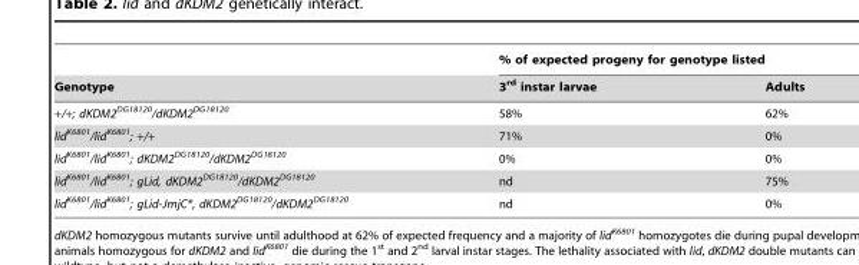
<table><thead><tr><td rowspan="2">Genotype</td><td colspan="2">% of expected progeny for genotype listed</td></tr><tr><td>3<sup>rd</sup> instar larvae</td><td>Adults</td></tr></thead><tbody><tr><td>+/+; dKDM2<sup>DG18120</sup>/dKDM2<sup>DG18120</sup></td><td>58%</td><td>62%</td></tr><tr><td>lid<sup>K6801</sup>/lid<sup>K6801</sup>; +/+</td><td>71%</td><td>0%</td></tr><tr><td>lid<sup>K6801</sup>/lid<sup>K6801</sup>; dKDM2<sup>DG18120</sup>/dKDM2<sup>DG18120</sup></td><td>0%</td><td>0%</td></tr><tr><td>lid<sup>K6801</sup>/lid<sup>K6801</sup>; gLid, dKDM2<sup>DG18120</sup>/dKDM2<sup>DG18120</sup></td><td>nd</td><td>75%</td></tr><tr><td>lid<sup>K6801</sup>/lid<sup>K6801</sup>; gLid-JmjC*, dKDM2<sup>DG18120</sup>/dKDM2<sup>DG18120</sup></td><td>nd</td><td>0%</td></tr></tbody></table>